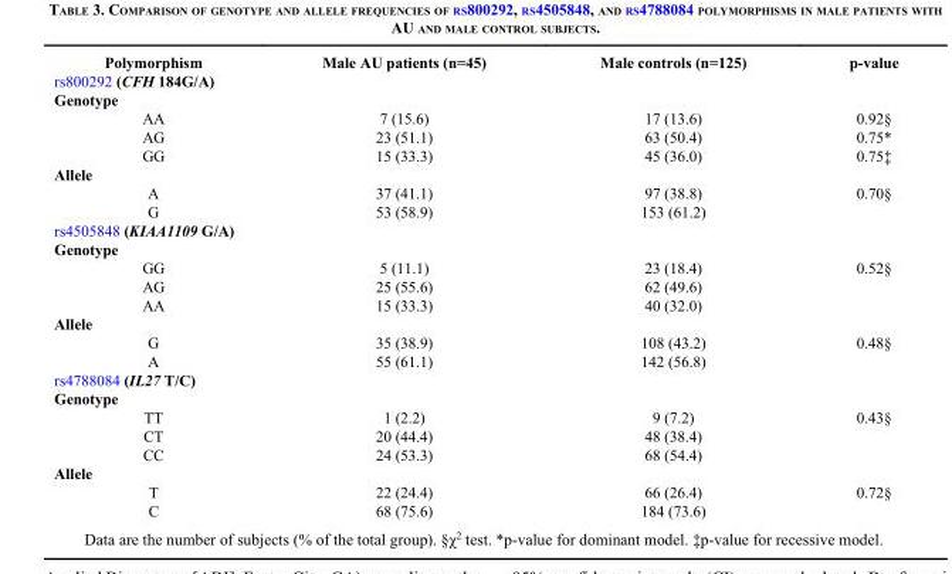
<table><thead><tr><td>Polymorphism</td><td>Male AU patients (n=45)</td><td>Male controls (n=125)</td><td>p-value</td></tr></thead><tbody><tr><td colspan="4">rs800292 (CFH 184G/A)</td></tr><tr><td colspan="4">Genotype</td></tr><tr><td>AA</td><td>7 (15.6)</td><td>17 (13.6)</td><td>0.92§</td></tr><tr><td>AG</td><td>23 (51.1)</td><td>63 (50.4)</td><td>0.75*</td></tr><tr><td>GG</td><td>15 (33.3)</td><td>45 (36.0)</td><td>0.75‡</td></tr><tr><td colspan="4">Allele</td></tr><tr><td>A</td><td>37 (41.1)</td><td>97 (38.8)</td><td>0.70§</td></tr><tr><td>G</td><td>53 (58.9)</td><td>153 (61.2)</td><td></td></tr><tr><td colspan="4">rs4505848 (KIAA1109 G/A)</td></tr><tr><td colspan="4">Genotype</td></tr><tr><td>GG</td><td>5 (11.1)</td><td>23 (18.4)</td><td>0.52§</td></tr><tr><td>AG</td><td>25 (55.6)</td><td>62 (49.6)</td><td></td></tr><tr><td>AA</td><td>15 (33.3)</td><td>40 (32.0)</td><td></td></tr><tr><td colspan="4">Allele</td></tr><tr><td>G</td><td>35 (38.9)</td><td>108 (43.2)</td><td>0.48§</td></tr><tr><td>A</td><td>55 (61.1)</td><td>142 (56.8)</td><td></td></tr><tr><td colspan="4">rs4788084 (IL27 T/C)</td></tr><tr><td colspan="4">Genotype</td></tr><tr><td>TT</td><td>1 (2.2)</td><td>9 (7.2)</td><td>0.43§</td></tr><tr><td>CT</td><td>20 (44.4)</td><td>48 (38.4)</td><td></td></tr><tr><td>CC</td><td>24 (53.3)</td><td>68 (54.4)</td><td></td></tr><tr><td colspan="4">Allele</td></tr><tr><td>T</td><td>22 (24.4)</td><td>66 (26.4)</td><td>0.72§</td></tr><tr><td>C</td><td>68 (75.6)</td><td>184 (73.6)</td><td></td></tr></tbody></table>